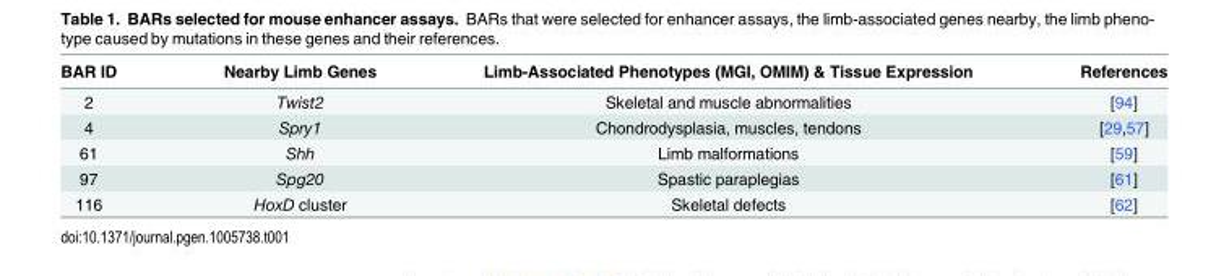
<table><thead><tr><td>BAR ID</td><td>Nearby Limb Genes</td><td>Limb-Associated Phenotypes (MGI, OMIM) &amp; Tissue Expression</td><td>References</td></tr></thead><tbody><tr><td>2</td><td>Twist2</td><td>Skeletal and muscle abnormalities</td><td>[94]</td></tr><tr><td>4</td><td>Spry1</td><td>Chondrodysplasia, muscles, tendons</td><td>[29,57]</td></tr><tr><td>61</td><td>Shh</td><td>Limb malformations</td><td>[59]</td></tr><tr><td>97</td><td>Spg20</td><td>Spastic paraplegias</td><td>[61]</td></tr><tr><td>116</td><td>HoxD cluster</td><td>Skeletal defects</td><td>[62]</td></tr></tbody></table>